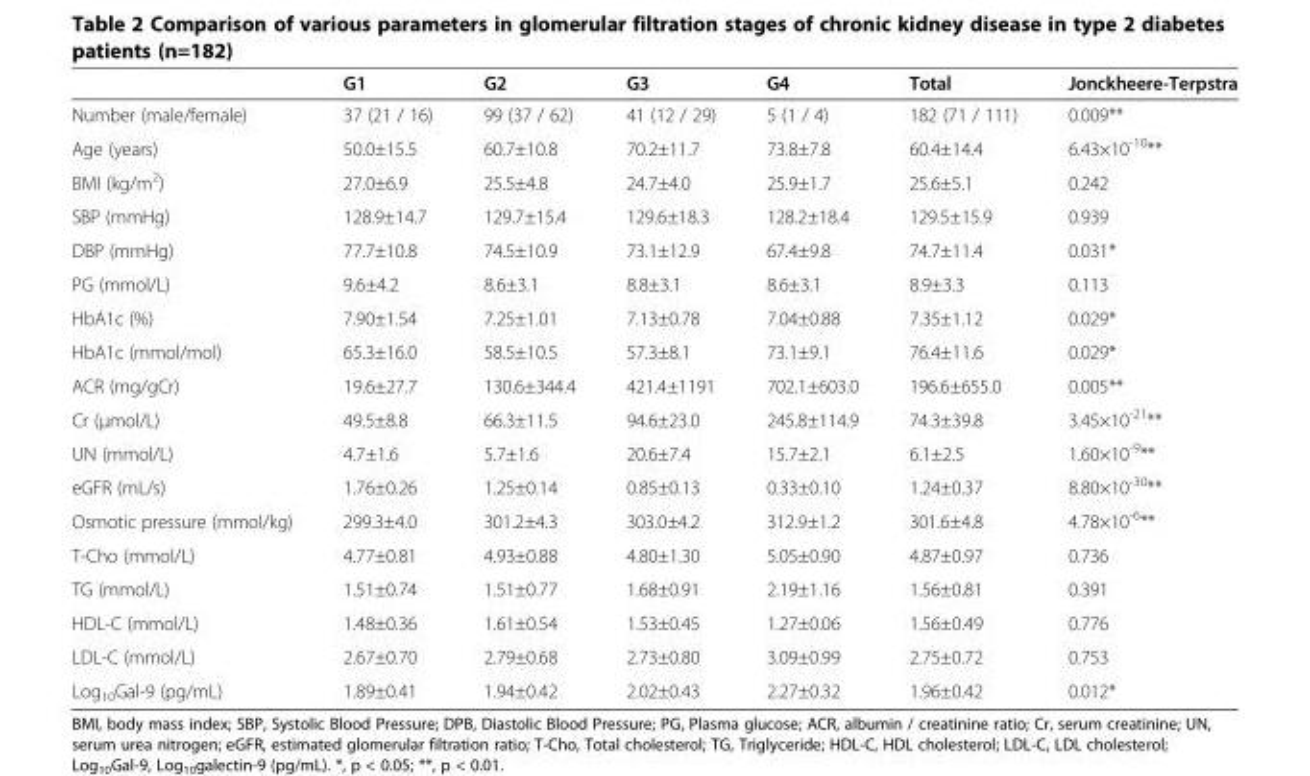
<table><thead><tr><td></td><td>G1</td><td>G2</td><td>G3</td><td>G4</td><td>Total</td><td>Jonckheere-Terpstra</td></tr></thead><tbody><tr><td>Number (male/female)</td><td>37 (21 / 16)</td><td>99 (37 / 62)</td><td>41 (12 / 29)</td><td>5 (1 / 4)</td><td>182 (71 / 111)</td><td>0.009**</td></tr><tr><td>Age (years)</td><td>50.0±15.5</td><td>60.7±10.8</td><td>70.2±11.7</td><td>73.8±7.8</td><td>60.4±14.4</td><td>6.43×10<sup>-10</sup>**</td></tr><tr><td>BMI (kg/m<sup>2</sup>)</td><td>27.0±6.9</td><td>25.5±4.8</td><td>24.7±4.0</td><td>25.9±1.7</td><td>25.6±5.1</td><td>0.242</td></tr><tr><td>SBP (mmHg)</td><td>128.9±14.7</td><td>129.7±15.4</td><td>129.6±18.3</td><td>128.2±18.4</td><td>129.5±15.9</td><td>0.939</td></tr><tr><td>DBP (mmHg)</td><td>77.7±10.8</td><td>74.5±10.9</td><td>73.1±12.9</td><td>67.4±9.8</td><td>74.7±11.4</td><td>0.031*</td></tr><tr><td>PG (mmol/L)</td><td>9.6±4.2</td><td>8.6±3.1</td><td>8.8±3.1</td><td>8.6±3.1</td><td>8.9±3.3</td><td>0.113</td></tr><tr><td>HbA1c (%)</td><td>7.90±1.54</td><td>7.25±1.01</td><td>7.13±0.78</td><td>7.04±0.88</td><td>7.35±1.12</td><td>0.029*</td></tr><tr><td>HbA1c (mmol/mol)</td><td>65.3±16.0</td><td>58.5±10.5</td><td>57.3±8.1</td><td>73.1±9.1</td><td>76.4±11.6</td><td>0.029*</td></tr><tr><td>ACR (mg/gCr)</td><td>19.6±27.7</td><td>130.6±344.4</td><td>421.4±1191</td><td>702.1±603.0</td><td>196.6±655.0</td><td>0.005**</td></tr><tr><td>Cr (μmol/L)</td><td>49.5±8.8</td><td>66.3±11.5</td><td>94.6±23.0</td><td>245.8±114.9</td><td>74.3±39.8</td><td>3.45×10<sup>-21</sup>**</td></tr><tr><td>UN (mmol/L)</td><td>4.7±1.6</td><td>5.7±1.6</td><td>20.6±7.4</td><td>15.7±2.1</td><td>6.1±2.5</td><td>1.60×10<sup>-9</sup>**</td></tr><tr><td>eGFR (mL/s)</td><td>1.76±0.26</td><td>1.25±0.14</td><td>0.85±0.13</td><td>0.33±0.10</td><td>1.24±0.37</td><td>8.80×10<sup>-30</sup>**</td></tr><tr><td>Osmotic pressure (mmol/kg)</td><td>299.3±4.0</td><td>301.2±4.3</td><td>303.0±4.2</td><td>312.9±1.2</td><td>301.6±4.8</td><td>4.78×10<sup>-6</sup>**</td></tr><tr><td>T-Cho (mmol/L)</td><td>4.77±0.81</td><td>4.93±0.88</td><td>4.80±1.30</td><td>5.05±0.90</td><td>4.87±0.97</td><td>0.736</td></tr><tr><td>TG (mmol/L)</td><td>1.51±0.74</td><td>1.51±0.77</td><td>1.68±0.91</td><td>2.19±1.16</td><td>1.56±0.81</td><td>0.391</td></tr><tr><td>HDL-C (mmol/L)</td><td>1.48±0.36</td><td>1.61±0.54</td><td>1.53±0.45</td><td>1.27±0.06</td><td>1.56±0.49</td><td>0.776</td></tr><tr><td>LDL-C (mmol/L)</td><td>2.67±0.70</td><td>2.79±0.68</td><td>2.73±0.80</td><td>3.09±0.99</td><td>2.75±0.72</td><td>0.753</td></tr><tr><td>Log<sub>10</sub>Gal-9 (pg/mL)</td><td>1.89±0.41</td><td>1.94±0.42</td><td>2.02±0.43</td><td>2.27±0.32</td><td>1.96±0.42</td><td>0.012*</td></tr></tbody></table>